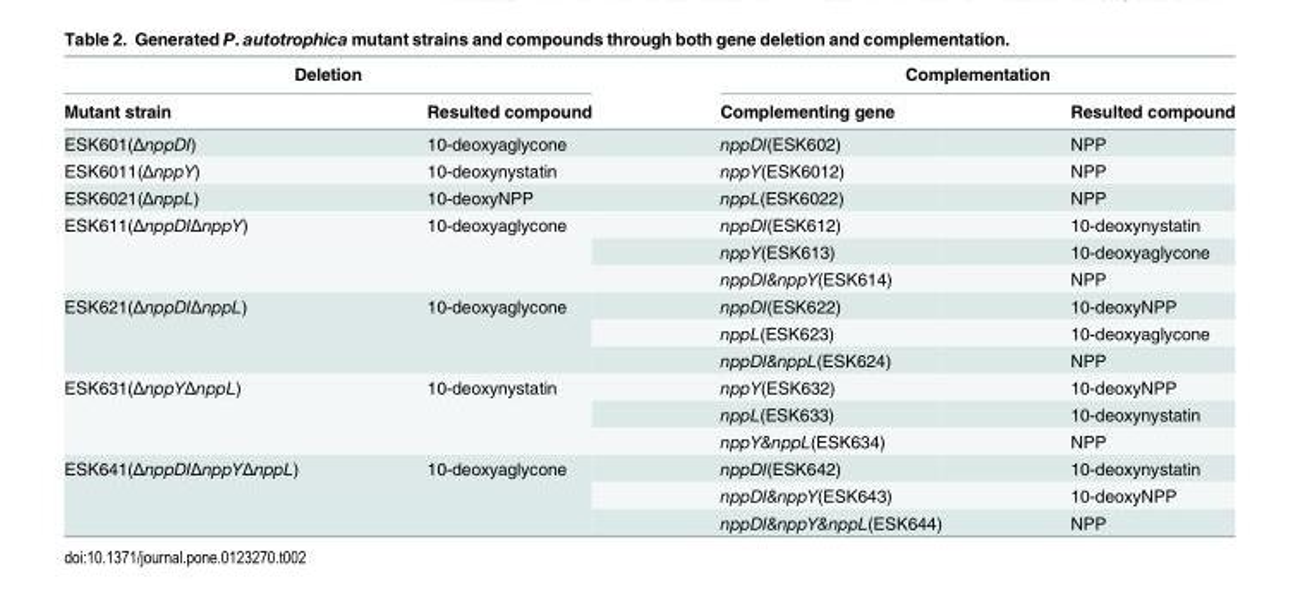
<table><thead><tr><td colspan="2">Deletion</td><td colspan="2">Complementation</td></tr><tr><td>Mutant strain</td><td>Resulted compound</td><td>Complementing gene</td><td>Resulted compound</td></tr></thead><tbody><tr><td>ESK601(ΔnppDI)</td><td>10-deoxyaglycone</td><td>nppDI(ESK602)</td><td>NPP</td></tr><tr><td>ESK6011(ΔnppY)</td><td>10-deoxynystatin</td><td>nppY(ESK6012)</td><td>NPP</td></tr><tr><td>ESK6021(ΔnppL)</td><td>10-deoxyNPP</td><td>nppL(ESK6022)</td><td>NPP</td></tr><tr><td rowspan="3">ESK611(ΔnppDIΔnppY)</td><td rowspan="3">10-deoxyaglycone</td><td>nppDI(ESK612)</td><td>10-deoxynystatin</td></tr><tr><td>nppY(ESK613)</td><td>10-deoxyaglycone</td></tr><tr><td>nppDI&amp;nppY(ESK614)</td><td>NPP</td></tr><tr><td rowspan="3">ESK621(ΔnppDIΔnppL)</td><td rowspan="3">10-deoxyaglycone</td><td>nppDI(ESK622)</td><td>10-deoxyNPP</td></tr><tr><td>nppL(ESK623)</td><td>10-deoxyaglycone</td></tr><tr><td>nppDI&amp;nppL(ESK624)</td><td>NPP</td></tr><tr><td rowspan="3">ESK631(ΔnppYΔnppL)</td><td rowspan="3">10-deoxynystatin</td><td>nppY(ESK632)</td><td>10-deoxyNPP</td></tr><tr><td>nppL(ESK633)</td><td>10-deoxynystatin</td></tr><tr><td>nppY&amp;nppL(ESK634)</td><td>NPP</td></tr><tr><td rowspan="3">ESK641(ΔnppDIΔnppYΔnppL)</td><td rowspan="3">10-deoxyaglycone</td><td>nppDI(ESK642)</td><td>10-deoxynystatin</td></tr><tr><td>nppDI&amp;nppY(ESK643)</td><td>10-deoxyNPP</td></tr><tr><td>nppDI&amp;nppY&amp;nppL(ESK644)</td><td>NPP</td></tr></tbody></table>